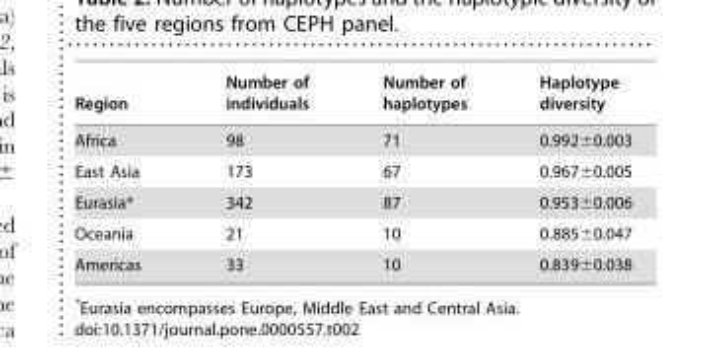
<table><thead><tr><td>Region</td><td>Number of individuals</td><td>Number of haplotypes</td><td>Haplotype diversity</td></tr></thead><tbody><tr><td>Africa</td><td>98</td><td>71</td><td>0.992±0.003</td></tr><tr><td>East Asia</td><td>173</td><td>67</td><td>0.967±0.005</td></tr><tr><td>Eurasia*</td><td>342</td><td>87</td><td>0.953±0.006</td></tr><tr><td>Oceania</td><td>21</td><td>10</td><td>0.885±0.047</td></tr><tr><td>Americas</td><td>33</td><td>10</td><td>0.839±0.038</td></tr></tbody></table>